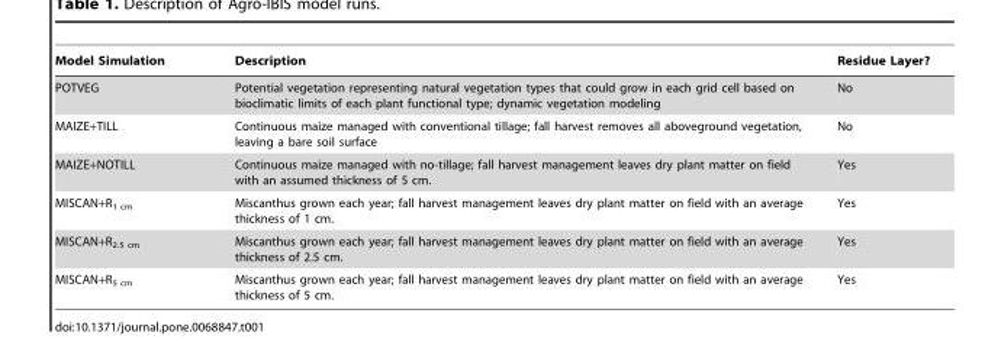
<table><thead><tr><td>Model Simulation</td><td>Description</td><td>Residue Layer?</td></tr></thead><tbody><tr><td>POTVEG</td><td>Potential vegetation representing natural vegetation types that could grow in each grid cell based on bioclimatic limits of each plant functional type; dynamic vegetation modeling</td><td>No</td></tr><tr><td>MAIZE+TILL</td><td>Continuous maize managed with conventional tillage; fall harvest removes all aboveground vegetation, leaving a bare soil surface</td><td>No</td></tr><tr><td>MAIZE+NOTILL</td><td>Continuous maize managed with no-tillage; fall harvest management leaves dry plant matter on field with an assumed thickness of 5 cm.</td><td>Yes</td></tr><tr><td>MISCAN+R<sub>1 cm</sub></td><td>Miscanthus grown each year; fall harvest management leaves dry plant matter on field with an average thickness of 1 cm.</td><td>Yes</td></tr><tr><td>MISCAN+R<sub>2.5 cm</sub></td><td>Miscanthus grown each year; fall harvest management leaves dry plant matter on field with an average thickness of 2.5 cm.</td><td>Yes</td></tr><tr><td>MISCAN+R<sub>5 cm</sub></td><td>Miscanthus grown each year; fall harvest management leaves dry plant matter on field with an average thickness of 5 cm.</td><td>Yes</td></tr></tbody></table>